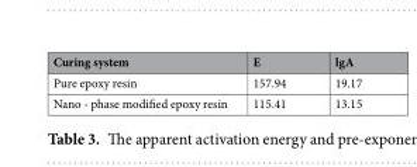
<table><thead><tr><td>Curing system</td><td>E</td><td>lgA</td></tr></thead><tbody><tr><td>Pure epoxy resin</td><td>157.94</td><td>19.17</td></tr><tr><td>Nano - phase modified epoxy resin</td><td>115.41</td><td>13.15</td></tr></tbody></table>